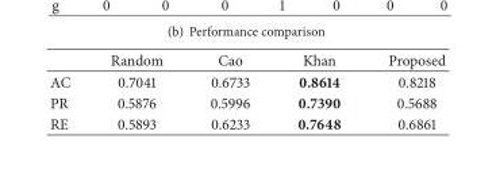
<table><thead><tr><td></td><td>Random</td><td>Cao</td><td>Khan</td><td>Proposed</td></tr></thead><tbody><tr><td>AC</td><td>0.7041</td><td>0.6733</td><td>0.8614</td><td>0.8218</td></tr><tr><td>PR</td><td>0.5876</td><td>0.5996</td><td>0.7390</td><td>0.5688</td></tr><tr><td>RE</td><td>0.5893</td><td>0.6233</td><td>0.7648</td><td>0.6861</td></tr></tbody></table>